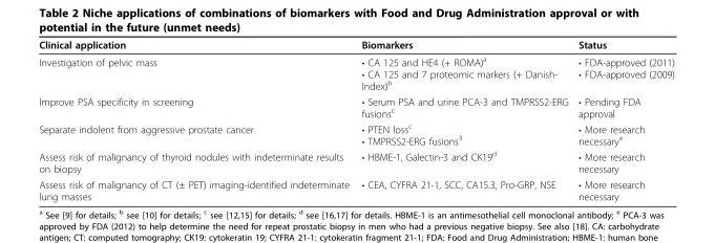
<table><thead><tr><td>Clinical application</td><td>Biomarkers</td><td>Status</td></tr></thead><tbody><tr><td>Investigation of pelvic mass</td><td>• CA 125 and HE4 (+ ROMA)<sup>a</sup> • CA 125 and 7 proteomic markers (+ Danish- Index)<sup>b</sup></td><td>• FDA-approved (2011) • FDA-approved (2009)</td></tr><tr><td>Improve PSA specificity in screening</td><td>• Serum PSA and urine PCA-3 and TMPRSS2-ERG fusions<sup>c</sup></td><td>• Pending FDA approval</td></tr><tr><td>Separate indolent from aggressive prostate cancer</td><td>• PTEN loss<sup>c</sup> • TMPRSS2-ERG fusions<sup>3</sup></td><td>• More research necessary<sup>e</sup></td></tr><tr><td>Assess risk of malignancy of thyroid nodules with indeterminate results on biopsy</td><td>• HBME-1, Galectin-3 and CK19<sup>d</sup></td><td>• More research necessary</td></tr><tr><td>Assess risk of malignancy of CT (± PET) imaging-identified indeterminate lung masses</td><td>• CEA, CYFRA 21-1, SCC, CA15.3, Pro-GRP, NSE</td><td>• More research necessary</td></tr></tbody></table>